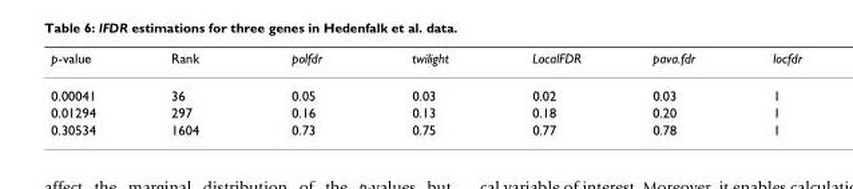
<table><thead><tr><td>p-value</td><td>Rank</td><td>polfdr</td><td>twilight</td><td>LocalFDR</td><td>pava.fdr</td><td>locfdr</td></tr></thead><tbody><tr><td>0.00041</td><td>36</td><td>0.05</td><td>0.03</td><td>0.02</td><td>0.03</td><td>1</td></tr><tr><td>0.01294</td><td>297</td><td>0.16</td><td>0.13</td><td>0.18</td><td>0.20</td><td>1</td></tr><tr><td>0.30534</td><td>1604</td><td>0.73</td><td>0.75</td><td>0.77</td><td>0.78</td><td>1</td></tr></tbody></table>